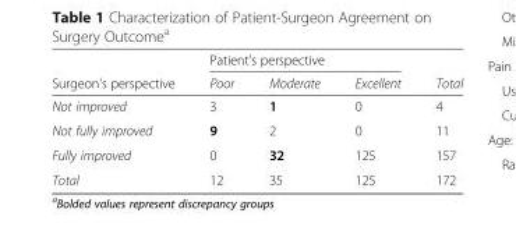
<table><thead><tr><td rowspan="2">Surgeon&#x27;s perspective</td><td colspan="3">Patient&#x27;s perspective</td><td rowspan="2">Total</td></tr><tr><td>Poor</td><td>Moderate</td><td>Excellent</td></tr></thead><tbody><tr><td>Not improved</td><td>3</td><td>1</td><td>0</td><td>4</td></tr><tr><td>Not fully improved</td><td>9</td><td>2</td><td>0</td><td>11</td></tr><tr><td>Fully improved</td><td>0</td><td>32</td><td>125</td><td>157</td></tr><tr><td>Total</td><td>12</td><td>35</td><td>125</td><td>172</td></tr></tbody></table>